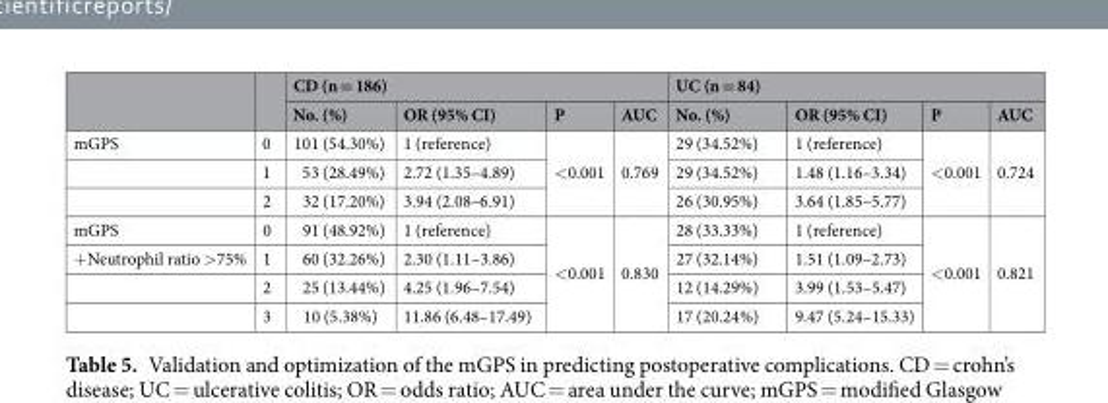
<table><thead><tr><td rowspan="2"></td><td rowspan="2"></td><td colspan="4">CD (n = 186)</td><td colspan="4">UC (n = 84)</td></tr><tr><td>No. (%)</td><td>OR (95% CI)</td><td>P</td><td>AUC</td><td>No. (%)</td><td>OR (95% CI)</td><td>P</td><td>AUC</td></tr></thead><tbody><tr><td rowspan="3">mGPS</td><td>0</td><td>101 (54.30%)</td><td>1 (reference)</td><td rowspan="3">&lt;0.001</td><td rowspan="3">0.769</td><td>29 (34.52%)</td><td>1 (reference)</td><td rowspan="3">&lt;0.001</td><td rowspan="3">0.724</td></tr><tr><td>1</td><td>53 (28.49%)</td><td>2.72 (1.35–4.89)</td><td>29 (34.52%)</td><td>1.48 (1.16–3.34)</td></tr><tr><td>2</td><td>32 (17.20%)</td><td>3.94 (2.08–6.91)</td><td>26 (30.95%)</td><td>3.64 (1.85–5.77)</td></tr><tr><td>mGPS</td><td>0</td><td>91 (48.92%)</td><td>1 (reference)</td><td rowspan="4">&lt;0.001</td><td rowspan="4">0.830</td><td>28 (33.33%)</td><td>1 (reference)</td><td rowspan="4">&lt;0.001</td><td rowspan="4">0.821</td></tr><tr><td rowspan="3">+Neutrophil ratio &gt;75%</td><td>1</td><td>60 (32.26%)</td><td>2.30 (1.11–3.86)</td><td>27 (32.14%)</td><td>1.51 (1.09–2.73)</td></tr><tr><td>2</td><td>25 (13.44%)</td><td>4.25 (1.96–7.54)</td><td>12 (14.29%)</td><td>3.99 (1.53–5.47)</td></tr><tr><td>3</td><td>10 (5.38%)</td><td>11.86 (6.48–17.49)</td><td>17 (20.24%)</td><td>9.47 (5.24–15.33)</td></tr></tbody></table>